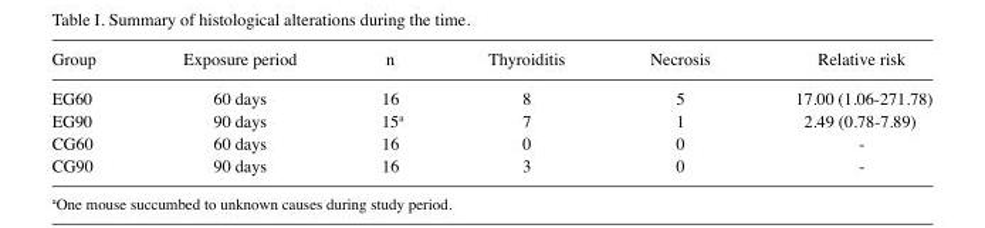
<table><thead><tr><td>Group</td><td>Exposure period</td><td>n</td><td>Thyroiditis</td><td>Necrosis</td><td>Relative risk</td></tr></thead><tbody><tr><td>EG60</td><td>60 days</td><td>16</td><td>8</td><td>5</td><td>17.00 (1.06-271.78)</td></tr><tr><td>EG90</td><td>90 days</td><td>15<sup>a</sup></td><td>7</td><td>1</td><td>2.49 (0.78-7.89)</td></tr><tr><td>CG60</td><td>60 days</td><td>16</td><td>0</td><td>0</td><td>-</td></tr><tr><td>CG90</td><td>90 days</td><td>16</td><td>3</td><td>0</td><td>-</td></tr></tbody></table>